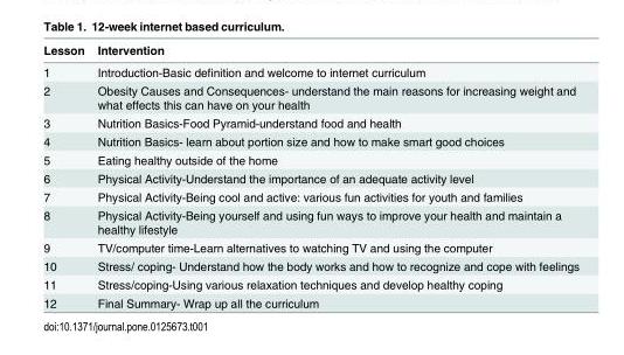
<table><thead><tr><td>Lesson</td><td>Intervention</td></tr></thead><tbody><tr><td>1</td><td>Introduction-Basic definition and welcome to internet curriculum</td></tr><tr><td>2</td><td>Obesity Causes and Consequences- understand the main reasons for increasing weight and what effects this can have on your health</td></tr><tr><td>3</td><td>Nutrition Basics-Food Pyramid-understand food and health</td></tr><tr><td>4</td><td>Nutrition Basics- learn about portion size and how to make smart good choices</td></tr><tr><td>5</td><td>Eating healthy outside of the home</td></tr><tr><td>6</td><td>Physical Activity-Understand the importance of an adequate activity level</td></tr><tr><td>7</td><td>Physical Activity-Being cool and active: various fun activities for youth and families</td></tr><tr><td>8</td><td>Physical Activity-Being yourself and using fun ways to improve your health and maintain a healthy lifestyle</td></tr><tr><td>9</td><td>TV/computer time-Learn alternatives to watching TV and using the computer</td></tr><tr><td>10</td><td>Stress/ coping- Understand how the body works and how to recognize and cope with feelings</td></tr><tr><td>11</td><td>Stress/coping-Using various relaxation techniques and develop healthy coping</td></tr><tr><td>12</td><td>Final Summary- Wrap up all the curriculum</td></tr></tbody></table>